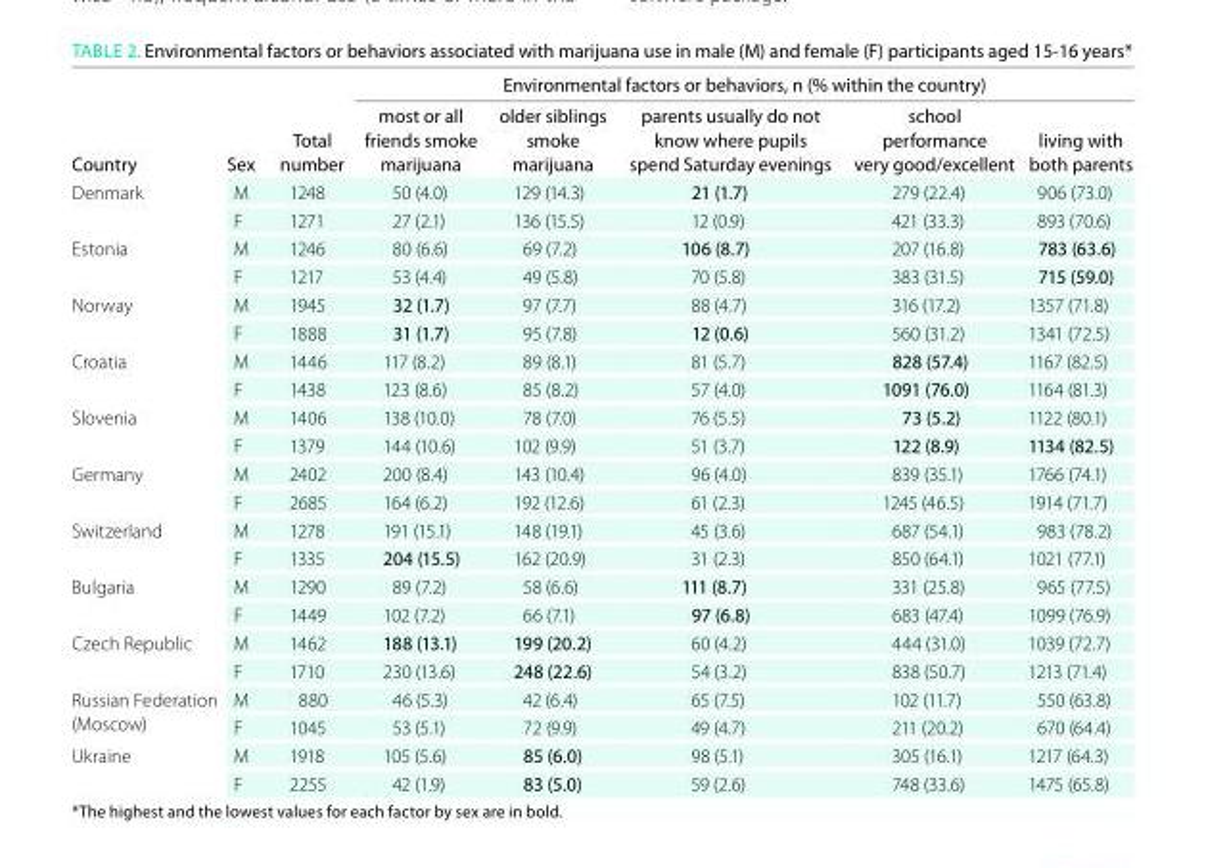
<table><thead><tr><td rowspan="2">Country</td><td rowspan="2">sex</td><td rowspan="2">total number</td><td colspan="5">environmental factors or behaviors, n (% within the country)</td></tr><tr><td>most or all friends smoke marijuana</td><td>older siblings smoke marijuana</td><td>parents usually do not know where pupils spend saturday evenings</td><td>school performance very good/excellent</td><td>living with both parents</td></tr></thead><tbody><tr><td rowspan="2">Denmark</td><td>M</td><td>1248</td><td>50 (4.0)</td><td>129 (14.3)</td><td>21 (1.7)</td><td>279 (22.4)</td><td>906 (73.0)</td></tr><tr><td>F</td><td>1271</td><td>27 (2.1)</td><td>136 (15.5)</td><td>12 (0.9)</td><td>421 (33.3)</td><td>893 (70.6)</td></tr><tr><td rowspan="2">Estonia</td><td>M</td><td>1246</td><td>80 (6.6)</td><td>69 (7.2)</td><td>106 (8.7)</td><td>207 (16.8)</td><td>783 (63.6)</td></tr><tr><td>F</td><td>1217</td><td>53 (4.4)</td><td>49 (5.8)</td><td>70 (5.8)</td><td>383 (31.5)</td><td>715 (59.0)</td></tr><tr><td rowspan="2">Norway</td><td>M</td><td>1945</td><td>32 (1.7)</td><td>97 (7.7)</td><td>88 (4.7)</td><td>316 (17.2)</td><td>1357 (71.8)</td></tr><tr><td>F</td><td>1888</td><td>31 (1.7)</td><td>95 (7.8)</td><td>12 (0.6)</td><td>560 (31.2)</td><td>1341 (72.5)</td></tr><tr><td rowspan="2">Croatia</td><td>M</td><td>1446</td><td>117 (8.2)</td><td>89 (8.1)</td><td>81 (5.7)</td><td>828 (57.4)</td><td>1167 (82.5)</td></tr><tr><td>F</td><td>1438</td><td>123 (8.6)</td><td>85 (8.2)</td><td>57 (4.0)</td><td>1091 (76.0)</td><td>1164 (81.3)</td></tr><tr><td rowspan="2">Slovenia</td><td>M</td><td>1406</td><td>138 (10.0)</td><td>78 (7.0)</td><td>76 (5.5)</td><td>73 (5.2)</td><td>1122 (80.1)</td></tr><tr><td>F</td><td>1379</td><td>144 (10.6)</td><td>102 (9.9)</td><td>51 (3.7)</td><td>122 (8.9)</td><td>1134 (82.5)</td></tr><tr><td rowspan="2">Germany</td><td>M</td><td>2402</td><td>200 (8.4)</td><td>143 (10.4)</td><td>96 (4.0)</td><td>839 (35.1)</td><td>1766 (74.1)</td></tr><tr><td>F</td><td>2685</td><td>164 (6.2)</td><td>192 (12.6)</td><td>61 (2.3)</td><td>1245 (46.5)</td><td>1914 (71.7)</td></tr><tr><td rowspan="2">Switzerland</td><td>M</td><td>1278</td><td>191 (15.1)</td><td>148 (19.1)</td><td>45 (3.6)</td><td>687 (54.1)</td><td>983 (78.2)</td></tr><tr><td>F</td><td>1335</td><td>204 (15.5)</td><td>162 (20.9)</td><td>31 (2.3)</td><td>850 (64.1)</td><td>1021 (77.1)</td></tr><tr><td rowspan="2">Bulgaria</td><td>M</td><td>1290</td><td>89 (7.2)</td><td>58 (6.6)</td><td>111 (8.7)</td><td>331 (25.8)</td><td>965 (77.5)</td></tr><tr><td>F</td><td>1449</td><td>102 (7.2)</td><td>66 (7.1)</td><td>97 (6.8)</td><td>683 (47.4)</td><td>1099 (76.9)</td></tr><tr><td rowspan="2">Czech Republic</td><td>M</td><td>1462</td><td>188 (13.1)</td><td>199 (20.2)</td><td>60 (4.2)</td><td>444 (31.0)</td><td>1039 (72.7)</td></tr><tr><td>F</td><td>1710</td><td>230 (13.6)</td><td>248 (22.6)</td><td>54 (3.2)</td><td>838 (50.7)</td><td>1213 (71.4)</td></tr><tr><td rowspan="2">Russian Federation (Moscow)</td><td>M</td><td>880</td><td>46 (5.3)</td><td>42 (6.4)</td><td>65 (7.5)</td><td>102 (11.7)</td><td>550 (63.8)</td></tr><tr><td>F</td><td>1045</td><td>53 (5.1)</td><td>72 (9.9)</td><td>49 (4.7)</td><td>211 (20.2)</td><td>670 (64.4)</td></tr><tr><td rowspan="2">Ukraine</td><td>M</td><td>1918</td><td>105 (5.6)</td><td>85 (6.0)</td><td>98 (5.1)</td><td>305 (16.1)</td><td>1217 (64.3)</td></tr><tr><td>F</td><td>2255</td><td>42 (1.9)</td><td>83 (5.0)</td><td>59 (2.6)</td><td>748 (33.6)</td><td>1475 (65.8)</td></tr></tbody></table>